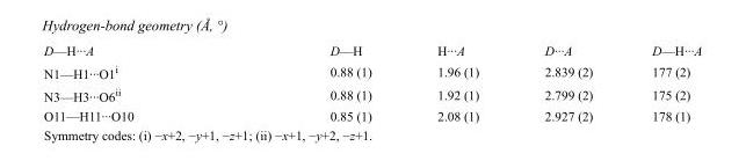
<table><tbody><tr><td>D—H···A</td><td>D—H</td><td>H···A</td><td>D···A</td><td>D—H···A</td></tr><tr><td>N1—H1···O1<sup>i</sup></td><td>0.88 (1)</td><td>1.96 (1)</td><td>2.839 (2)</td><td>177 (2)</td></tr><tr><td>N3—H3···O6<sup>ii</sup></td><td>0.88 (1)</td><td>1.92 (1)</td><td>2.799 (2)</td><td>175 (2)</td></tr><tr><td>O11—H11···O10</td><td>0.85 (1)</td><td>2.08 (1)</td><td>2.927 (2)</td><td>178 (1)</td></tr></tbody></table>